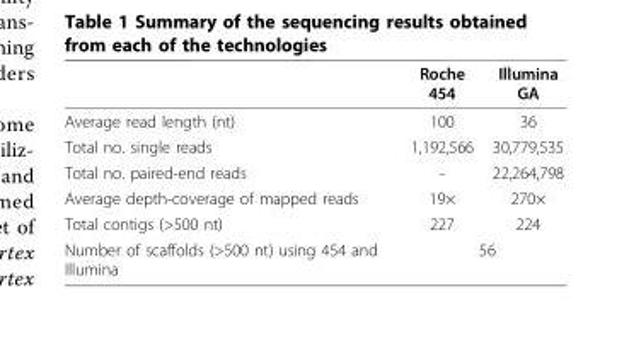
<table><thead><tr><td></td><td>Roche 454</td><td>Illumina GA</td></tr></thead><tbody><tr><td>Average read length (nt)</td><td>100</td><td>36</td></tr><tr><td>Total no. single reads</td><td>1,192,566</td><td>30,779,535</td></tr><tr><td>Total no. paired-end reads</td><td>-</td><td>22,264,798</td></tr><tr><td>Average depth-coverage of mapped reads</td><td>19×</td><td>270×</td></tr><tr><td>Total contigs (&gt;500 nt)</td><td>227</td><td>224</td></tr><tr><td>Number of scaffolds (&gt;500 nt) using 454 and Illumina</td><td colspan="2">56</td></tr></tbody></table>